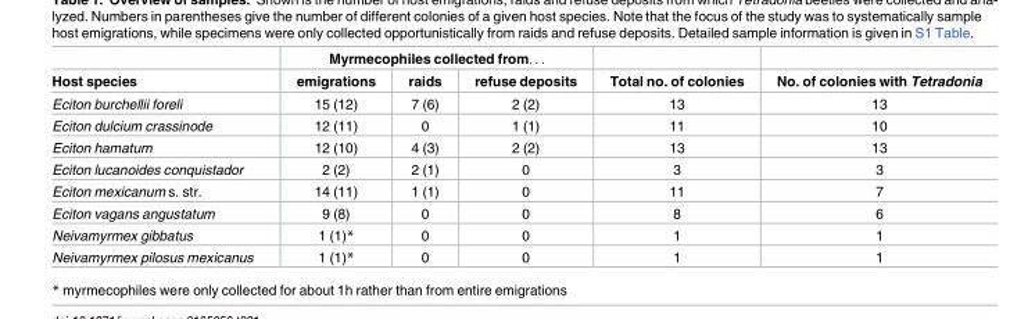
<table><thead><tr><td rowspan="2">Host species</td><td colspan="3">Myrmecophiles collected from. . .</td><td rowspan="2">Total no. of colonies</td><td rowspan="2">No. of colonies with Tetradonia</td></tr><tr><td>emigrations</td><td>raids</td><td>refuse deposits</td></tr></thead><tbody><tr><td>Eciton burchellii foreli</td><td>15 (12)</td><td>7 (6)</td><td>2 (2)</td><td>13</td><td>13</td></tr><tr><td>Eciton dulcium crassinode</td><td>12 (11)</td><td>0</td><td>1 (1)</td><td>11</td><td>10</td></tr><tr><td>Eciton hamatum</td><td>12 (10)</td><td>4 (3)</td><td>2 (2)</td><td>13</td><td>13</td></tr><tr><td>Eciton lucanoides conquistador</td><td>2 (2)</td><td>2 (1)</td><td>0</td><td>3</td><td>3</td></tr><tr><td>Eciton mexicanum s. str.</td><td>14 (11)</td><td>1 (1)</td><td>0</td><td>11</td><td>7</td></tr><tr><td>Eciton vagans angustatum</td><td>9 (8)</td><td>0</td><td>0</td><td>8</td><td>6</td></tr><tr><td>Neivamyrmex gibbatus</td><td>1 (1)*</td><td>0</td><td>0</td><td>1</td><td>1</td></tr><tr><td>Neivamyrmex pilosus mexicanus</td><td>1 (1)*</td><td>0</td><td>0</td><td>1</td><td>1</td></tr></tbody></table>